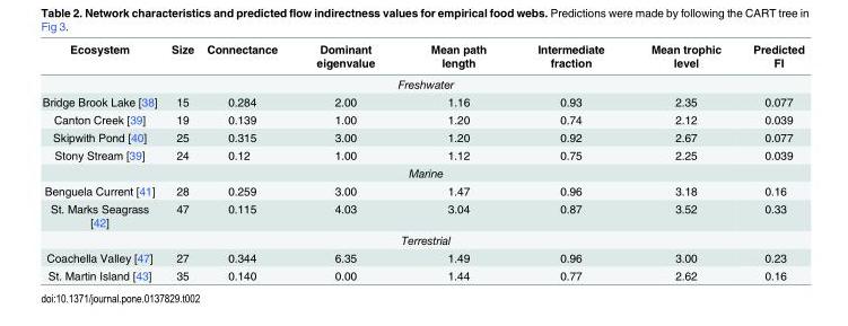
<table><thead><tr><td>Ecosystem</td><td>Size</td><td>Connectance</td><td>Dominant eigenvalue</td><td>Mean path length</td><td>Intermediate fraction</td><td>Mean trophic level</td><td>Predicted FI</td></tr></thead><tbody><tr><td colspan="8">Freshwater</td></tr><tr><td>Bridge Brook Lake [38]</td><td>15</td><td>0.284</td><td>2.00</td><td>1.16</td><td>0.93</td><td>2.35</td><td>0.077</td></tr><tr><td>Canton Creek [39]</td><td>19</td><td>0.139</td><td>1.00</td><td>1.20</td><td>0.74</td><td>2.12</td><td>0.039</td></tr><tr><td>Skipwith Pond [40]</td><td>25</td><td>0.315</td><td>3.00</td><td>1.20</td><td>0.92</td><td>2.67</td><td>0.077</td></tr><tr><td>Stony Stream [39]</td><td>24</td><td>0.12</td><td>1.00</td><td>1.12</td><td>0.75</td><td>2.25</td><td>0.039</td></tr><tr><td colspan="8">Marine</td></tr><tr><td>Benguela Current [41]</td><td>28</td><td>0.259</td><td>3.00</td><td>1.47</td><td>0.96</td><td>3.18</td><td>0.16</td></tr><tr><td>St. Marks Seagrass [42]</td><td>47</td><td>0.115</td><td>4.03</td><td>3.04</td><td>0.87</td><td>3.52</td><td>0.33</td></tr><tr><td colspan="8">Terrestrial</td></tr><tr><td>Coachella Valley [47]</td><td>27</td><td>0.344</td><td>6.35</td><td>1.49</td><td>0.96</td><td>3.00</td><td>0.23</td></tr><tr><td>St. Martin Island [43]</td><td>35</td><td>0.140</td><td>0.00</td><td>1.44</td><td>0.77</td><td>2.62</td><td>0.16</td></tr></tbody></table>